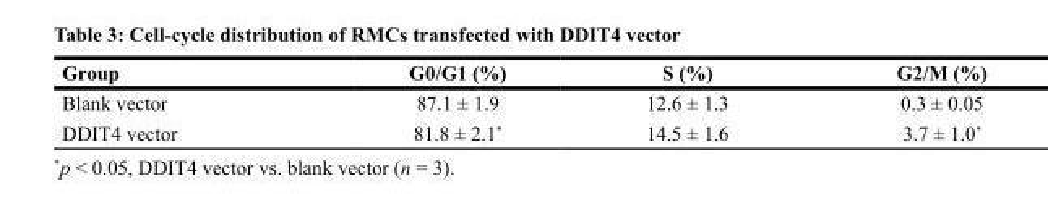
<table><thead><tr><td>Group</td><td>G0/G1 (%)</td><td>S (%)</td><td>G2/M (%)</td></tr></thead><tbody><tr><td>Blank vector</td><td>87.1 ± 1.9</td><td>12.6 ± 1.3</td><td>0.3 ± 0.05</td></tr><tr><td>DDIT4 vector</td><td>81.8 ± 2.1*</td><td>14.5 ± 1.6</td><td>3.7 ± 1.0*</td></tr></tbody></table>